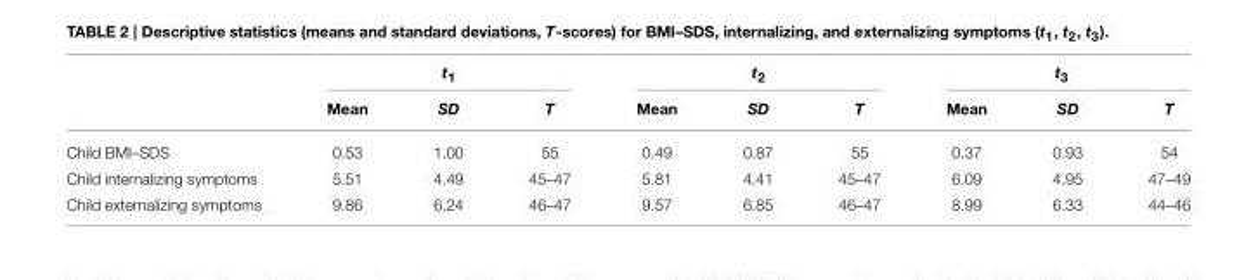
<table><thead><tr><td rowspan="2"></td><td colspan="3">t<sub>1</sub></td><td colspan="3">t<sub>2</sub></td><td colspan="3">t<sub>3</sub></td></tr><tr><td>Mean</td><td>SD</td><td>T</td><td>Mean</td><td>SD</td><td>T</td><td>Mean</td><td>SD</td><td>T</td></tr></thead><tbody><tr><td>Child BMI–SDS</td><td>0.53</td><td>1.00</td><td>55</td><td>0.49</td><td>0.87</td><td>55</td><td>0.37</td><td>0.93</td><td>54</td></tr><tr><td>Child internalizing symptoms</td><td>5.51</td><td>4.49</td><td>45–47</td><td>5.81</td><td>4.41</td><td>45–47</td><td>6.09</td><td>4.95</td><td>47–49</td></tr><tr><td>Child externalizing symptoms</td><td>9.86</td><td>6.24</td><td>46–47</td><td>9.57</td><td>6.85</td><td>46–47</td><td>8.99</td><td>6.33</td><td>44–46</td></tr></tbody></table>